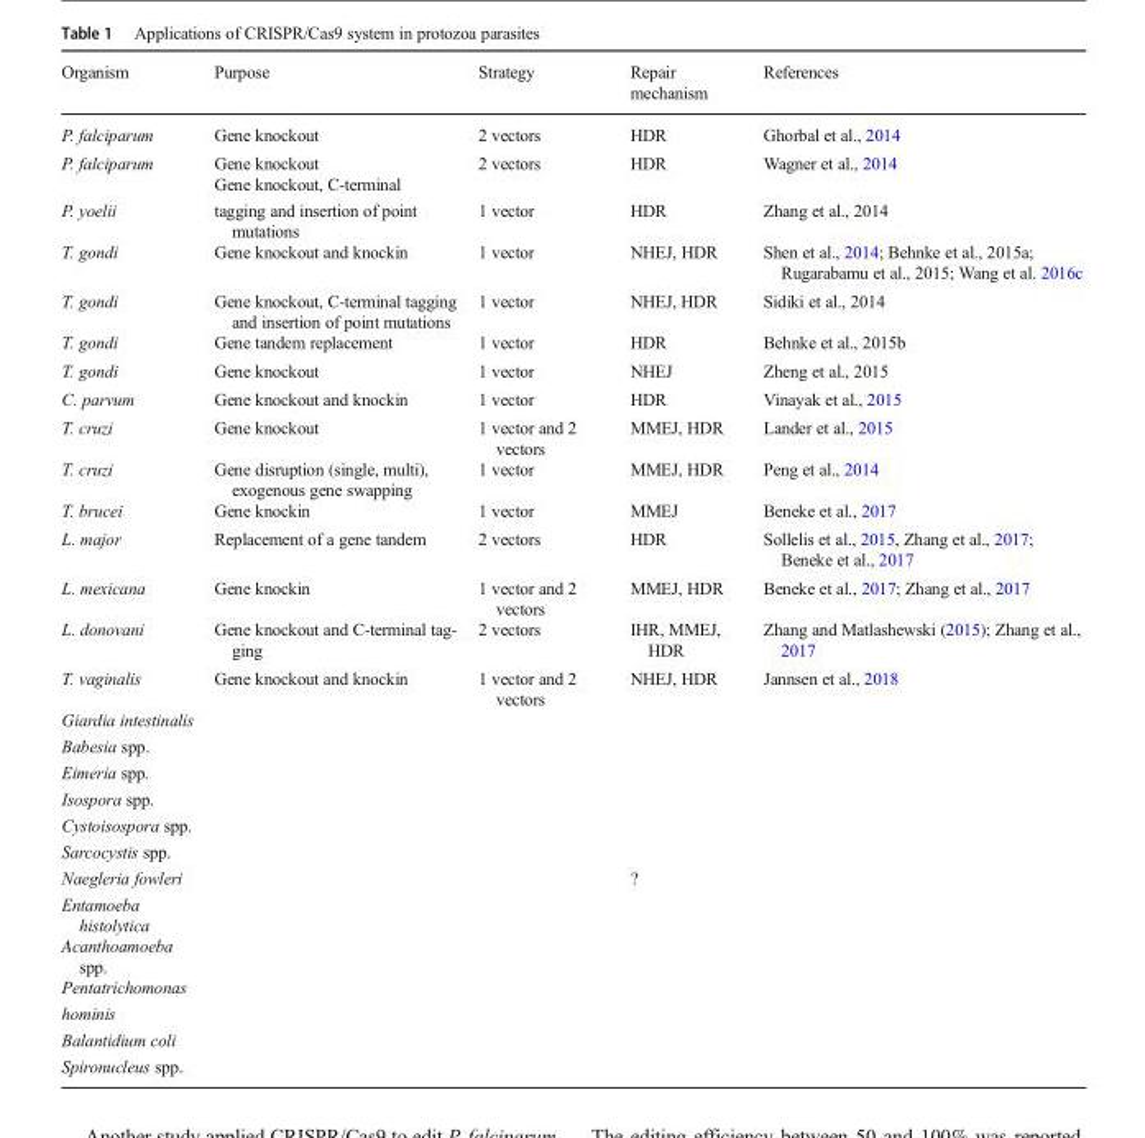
<table><thead><tr><td>Organism</td><td>Purpose</td><td>Strategy</td><td>Repair mechanism</td><td>References</td></tr></thead><tbody><tr><td>P. falciparum</td><td>Gene knockout</td><td>2 vectors</td><td>HDR</td><td>Ghorbal et al., 2014</td></tr><tr><td rowspan="2">P. falciparum</td><td>Gene knockout</td><td rowspan="2">2 vectors</td><td rowspan="2">HDR</td><td rowspan="2">Wagner et al., 2014</td></tr><tr><td>Gene knockout, C-terminal</td></tr><tr><td>P. yoelii</td><td>tagging and insertion of point mutations</td><td>1 vector</td><td>HDR</td><td>Zhang et al., 2014</td></tr><tr><td>T. gondi</td><td>Gene knockout and knockin</td><td>1 vector</td><td>NHEJ, HDR</td><td>Shen et al., 2014; Behnke et al., 2015a; Rugarabamu et al., 2015; Wang et al. 2016c</td></tr><tr><td>T. gondi</td><td>Gene knockout, C-terminal tagging and insertion of point mutations</td><td>1 vector</td><td>NHEJ, HDR</td><td>Sidiki et al., 2014</td></tr><tr><td>T. gondi</td><td>Gene tandem replacement</td><td>1 vector</td><td>HDR</td><td>Behnke et al., 2015b</td></tr><tr><td>T. gondi</td><td>Gene knockout</td><td>1 vector</td><td>NHEJ</td><td>Zheng et al., 2015</td></tr><tr><td>C. parvum</td><td>Gene knockout and knockin</td><td>1 vector</td><td>HDR</td><td>Vinayak et al., 2015</td></tr><tr><td>T. cruzi</td><td>Gene knockout</td><td>1 vector and 2 vectors</td><td>MMEJ, HDR</td><td>Lander et al., 2015</td></tr><tr><td>T. cruzi</td><td>Gene disruption (single, multi), exogenous gene swapping</td><td>1 vector</td><td>MMEJ, HDR</td><td>Peng et al., 2014</td></tr><tr><td>T. brucei</td><td>Gene knockin</td><td>1 vector</td><td>MMEJ</td><td>Beneke et al., 2017</td></tr><tr><td>L. major</td><td>Replacement of a gene tandem</td><td>2 vectors</td><td>HDR</td><td>Sollelis et al., 2015, Zhang et al., 2017; Beneke et al., 2017</td></tr><tr><td>L. mexicana</td><td>Gene knockin</td><td>1 vector and 2 vectors</td><td>MMEJ, HDR</td><td>Beneke et al., 2017; Zhang et al., 2017</td></tr><tr><td>L. donovani</td><td>Gene knockout and C-terminal tag- ging</td><td>2 vectors</td><td>IHR, MMEJ, HDR</td><td>Zhang and Matlashewski (2015); Zhang et al., 2017</td></tr><tr><td>T. vaginalis</td><td>Gene knockout and knockin</td><td>1 vector and 2 vectors</td><td>NHEJ, HDR</td><td>Jannsen et al., 2018</td></tr><tr><td colspan="5">Giardia intestinalis</td></tr><tr><td colspan="5">Babesia spp.</td></tr><tr><td colspan="5">Eimeria spp.</td></tr><tr><td colspan="5">Isospora spp.</td></tr><tr><td colspan="5">Cystoisospora spp.</td></tr><tr><td colspan="5">Sarcocystis spp.</td></tr><tr><td>Naegleria fowleri</td><td></td><td></td><td>?</td><td></td></tr><tr><td colspan="5">Entamoeba histolytica</td></tr><tr><td colspan="5">Acanthoamoeba spp.</td></tr><tr><td colspan="5">Pentatrichomonas</td></tr><tr><td colspan="5">hominis</td></tr><tr><td colspan="5">Balantidium coli</td></tr><tr><td>Spironucleus spp.</td><td></td><td></td><td></td><td></td></tr></tbody></table>